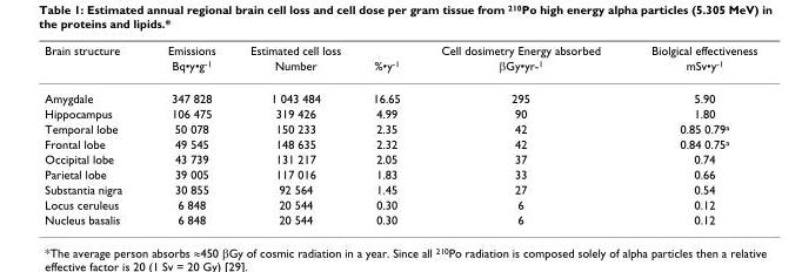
<table><thead><tr><td rowspan="2">Brain structure</td><td rowspan="2">Emissions Bq•y•g<sup>-1</sup></td><td rowspan="2">Estimated cell loss Number</td><td rowspan="2">%•y<sup>-1</sup></td><td rowspan="2">Cell dosimetry Energy absorbed βGy•yr-<sup>1</sup></td><td rowspan="2">Biolgical effectiveness mSv•y<sup>-1</sup></td></tr><tr></tr></thead><tbody><tr><td>Amygdale</td><td>347 828</td><td>1 043 484</td><td>16.65</td><td>295</td><td>5.90</td></tr><tr><td>Hippocampus</td><td>106 475</td><td>319 426</td><td>4.99</td><td>90</td><td>1.80</td></tr><tr><td>Temporal lobe</td><td>50 078</td><td>150 233</td><td>2.35</td><td>42</td><td>0.85 0.79<sup>a</sup></td></tr><tr><td>Frontal lobe</td><td>49 545</td><td>148 635</td><td>2.32</td><td>42</td><td>0.84 0.75<sup>a</sup></td></tr><tr><td>Occipital lobe</td><td>43 739</td><td>131 217</td><td>2.05</td><td>37</td><td>0.74</td></tr><tr><td>Parietal lobe</td><td>39 005</td><td>117 016</td><td>1.83</td><td>33</td><td>0.66</td></tr><tr><td>Substantia nigra</td><td>30 855</td><td>92 564</td><td>1.45</td><td>27</td><td>0.54</td></tr><tr><td>Locus ceruleus</td><td>6 848</td><td>20 544</td><td>0.30</td><td>6</td><td>0.12</td></tr><tr><td>Nucleus basalis</td><td>6 848</td><td>20 544</td><td>0.30</td><td>6</td><td>0.12</td></tr></tbody></table>